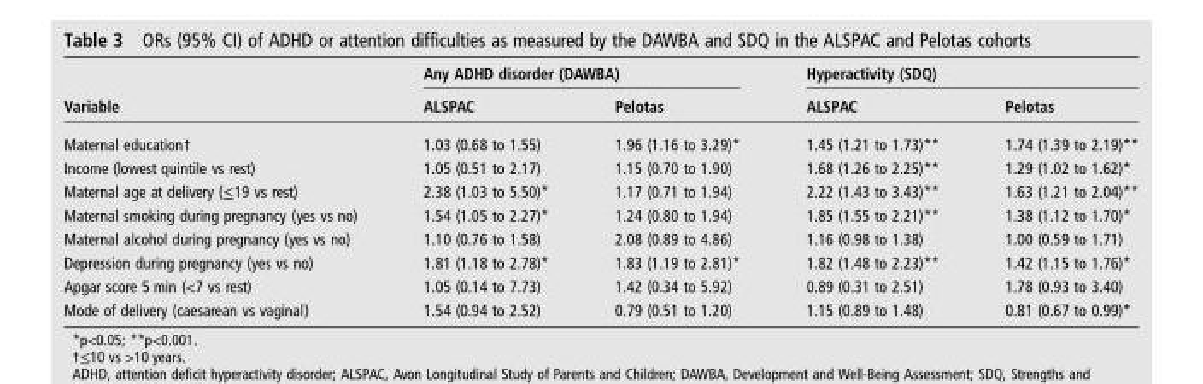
<table><thead><tr><td rowspan="2">Variable</td><td colspan="2">Any ADHD disorder (DAWBA)</td><td colspan="2">Hyperactivity (SDQ)</td></tr><tr><td>ALSPAC</td><td>Pelotas</td><td>ALSPAC</td><td>Pelotas</td></tr></thead><tbody><tr><td>Maternal education†</td><td>1.03 (0.68 to 1.55)</td><td>1.96 (1.16 to 3.29)*</td><td>1.45 (1.21 to 1.73)**</td><td>1.74 (1.39 to 2.19)**</td></tr><tr><td>Income (lowest quintile vs rest)</td><td>1.05 (0.51 to 2.17)</td><td>1.15 (0.70 to 1.90)</td><td>1.68 (1.26 to 2.25)**</td><td>1.29 (1.02 to 1.62)*</td></tr><tr><td>Maternal age at delivery (≤19 vs rest)</td><td>2.38 (1.03 to 5.50)*</td><td>1.17 (0.71 to 1.94)</td><td>2.22 (1.43 to 3.43)**</td><td>1.63 (1.21 to 2.04)**</td></tr><tr><td>Maternal smoking during pregnancy (yes vs no)</td><td>1.54 (1.05 to 2.27)*</td><td>1.24 (0.80 to 1.94)</td><td>1.85 (1.55 to 2.21)**</td><td>1.38 (1.12 to 1.70)*</td></tr><tr><td>Maternal alcohol during pregnancy (yes vs no)</td><td>1.10 (0.76 to 1.58)</td><td>2.08 (0.89 to 4.86)</td><td>1.16 (0.98 to 1.38)</td><td>1.00 (0.59 to 1.71)</td></tr><tr><td>Depression during pregnancy (yes vs no)</td><td>1.81 (1.18 to 2.78)*</td><td>1.83 (1.19 to 2.81)*</td><td>1.82 (1.48 to 2.23)**</td><td>1.42 (1.15 to 1.76)*</td></tr><tr><td>Apgar score 5 min (&lt;7 vs rest)</td><td>1.05 (0.14 to 7.73)</td><td>1.42 (0.34 to 5.92)</td><td>0.89 (0.31 to 2.51)</td><td>1.78 (0.93 to 3.40)</td></tr><tr><td>Mode of delivery (caesarean vs vaginal)</td><td>1.54 (0.94 to 2.52)</td><td>0.79 (0.51 to 1.20)</td><td>1.15 (0.89 to 1.48)</td><td>0.81 (0.67 to 0.99)*</td></tr></tbody></table>